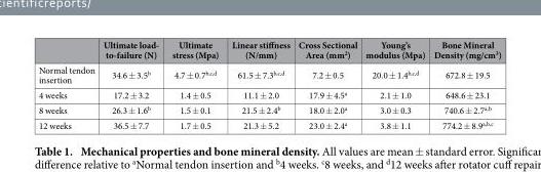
<table><thead><tr><td></td><td>Ultimate load- to-failure (N)</td><td>Ultimate stress (Mpa)</td><td>Linear stiffness (N/mm)</td><td>Cross Sectional Area (mm<sup>2</sup>)</td><td>Young’s modulus (Mpa)</td><td>Bone Mineral Density (mg/cm<sup>3</sup>)</td></tr></thead><tbody><tr><td>Normal tendon insertion</td><td>34.6 ± 3.5<sup>b</sup></td><td>4.7 ± 0.7<sup>b</sup>,c,d</td><td>61.5 ± 7.3<sup>b</sup>,c,d</td><td>7.2 ± 0.5</td><td>20.0 ± 1.4<sup>b</sup>,c,d</td><td>672.8 ± 19.5</td></tr><tr><td>4 weeks</td><td>17.2 ± 3.2</td><td>1.4 ± 0.5</td><td>11.1 ± 2.0</td><td>17.9 ± 4.5<sup>a</sup></td><td>2.1 ± 1.0</td><td>648.6 ± 23.1</td></tr><tr><td>8 weeks</td><td>26.3 ± 1.6<sup>b</sup></td><td>1.5 ± 0.1</td><td>21.5 ± 2.4<sup>b</sup></td><td>18.0 ± 2.0<sup>a</sup></td><td>3.0 ± 0.3</td><td>740.6 ± 2.7<sup>a</sup>,b</td></tr><tr><td>12 weeks</td><td>36.5 ± 7.7</td><td>1.7 ± 0.5</td><td>21.3 ± 5.2</td><td>23.0 ± 2.4<sup>a</sup></td><td>3.8 ± 1.1</td><td>774.2 ± 8.9<sup>a</sup>,b,c</td></tr></tbody></table>